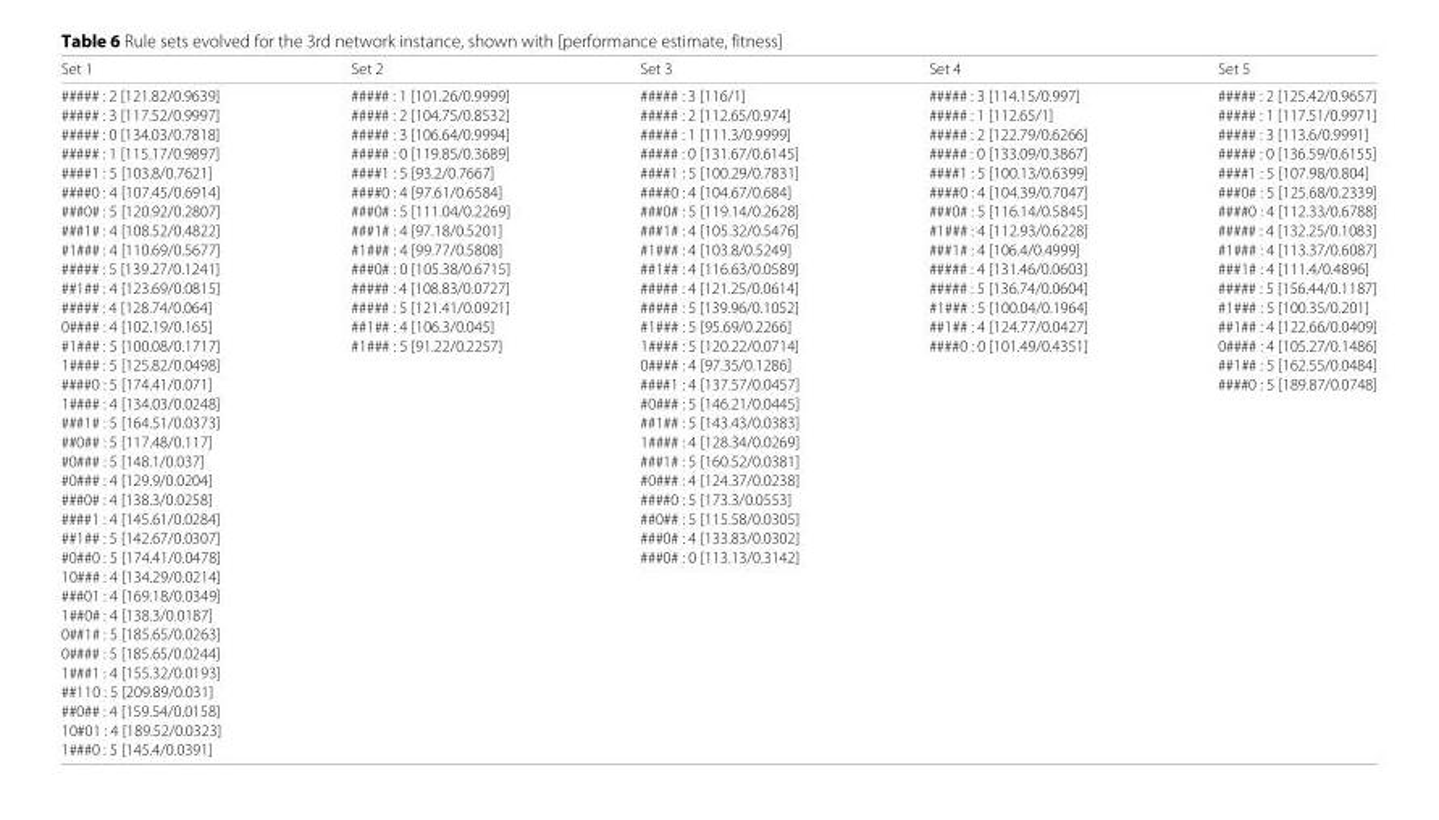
<table><thead><tr><td>Set 1</td><td>Set 2</td><td>Set 3</td><td>Set 4</td><td>Set 5</td></tr></thead><tbody><tr><td>##### : 2 [121.82/0.9639]</td><td>##### : 1 [101.26/0.9999]</td><td>##### : 3 [116/1]</td><td>##### : 3 [114.15/0.997]</td><td>##### : 2 [125.42/0.9657]</td></tr><tr><td>##### : 3 [117.52/0.9997]</td><td>##### : 2 [104.75/0.8532]</td><td>##### : 2 [112.65/0.974]</td><td>##### : 1 [112.65/1]</td><td>##### : 1 [117.51/0.9971]</td></tr><tr><td>##### : 0 [134.03/0.7818]</td><td>##### : 3 [106.64/0.9994]</td><td>##### : 1 [111.3/0.9999]</td><td>##### : 2 [122.79/0.6266]</td><td>##### : 3 [113.6/0.9991]</td></tr><tr><td>##### : 1 [115.17/0.9897]</td><td>##### : 0 [119.85/0.3689]</td><td>##### : 0 [131.67/0.6145]</td><td>##### : 0 [133.09/0.3867]</td><td>##### : 0 [136.59/0.6155]</td></tr><tr><td>####1 : 5 [103.8/0.7621]</td><td>####1 : 5 [93.2/0.7667]</td><td>####1 : 5 [100.29/0.7831]</td><td>####1 : 5 [100.13/0.6399]</td><td>####1 : 5 [107.98/0.804]</td></tr><tr><td>####0 : 4 [107.45/0.6914]</td><td>####0 : 4 [97.61/0.6584]</td><td>####0 : 4 [104.67/0.684]</td><td>####0 : 4 [104.39/0.7047]</td><td>###0# : 5 [125.68/0.2339]</td></tr><tr><td>###0# : 5 [120.92/0.2807]</td><td>###0# : 5 [111.04/0.2269]</td><td>###0# : 5 [119.14/0.2628]</td><td>###0# : 5 [116.14/0.5845]</td><td>####0 : 4 [112.33/0.6788]</td></tr><tr><td>###1# : 4 [108.52/0.4822]</td><td>###1# : 4 [97.18/0.5201]</td><td>###1# : 4 [105.32/0.5476]</td><td>#1### : 4 [112.93/0.6228]</td><td>##### : 4 [132.25/0.1083]</td></tr><tr><td>#1### : 4 [110.69/0.5677]</td><td>#1### : 4 [99.77/0.5808]</td><td>#1### : 4 [103.8/0.5249]</td><td>###1# : 4 [106.4/0.4999]</td><td>#1### : 4 [113.37/0.6087]</td></tr><tr><td>##### : 5 [139.27/0.1241]</td><td>###0# : 0 [105.38/0.6715]</td><td>##1## : 4 [116.63/0.0589]</td><td>##### : 4 [131.46/0.0603]</td><td>###1# : 4 [111.4/0.4896]</td></tr><tr><td>##1## : 4 [123.69/0.0815]</td><td>##### : 4 [108.83/0.0727]</td><td>##### : 4 [121.25/0.0614]</td><td>##### : 5 [136.74/0.0604]</td><td>##### : 5 [156.44/0.1187]</td></tr><tr><td>##### : 4 [128.74/0.064]</td><td>##### : 5 [121.41/0.0921]</td><td>##### : 5 [139.96/0.1052]</td><td>#1### : 5 [100.04/0.1964]</td><td>#1### : 5 [100.35/0.201]</td></tr><tr><td>0#### : 4 [102.19/0.165]</td><td>##1## : 4 [106.3/0.045]</td><td>#1### : 5 [95.69/0.2266]</td><td>##1## : 4 [124.77/0.0427]</td><td>##1## : 4 [122.66/0.0409]</td></tr><tr><td>#1### : 5 [100.08/0.1717]</td><td>#1### : 5 [91.22/0.2257]</td><td>1#### : 5 [120.22/0.0714]</td><td>####0 : 0 [101.49/0.4351]</td><td>0#### : 4 [105.27/0.1486]</td></tr><tr><td>1#### : 5 [125.82/0.0498]</td><td></td><td>0#### : 4 [97.35/0.1286]</td><td></td><td>##1## : 5 [162.55/0.0484]</td></tr><tr><td>####0 : 5 [174.41/0.071]</td><td></td><td>####1 : 4 [137.57/0.0457]</td><td></td><td>####0 : 5 [189.87/0.0748]</td></tr><tr><td>1#### : 4 [134.03/0.0248]</td><td></td><td>#0### : 5 [146.21/0.0445]</td><td></td><td></td></tr><tr><td>###1# : 5 [164.51/0.0373]</td><td></td><td>##1## : 5 [143.43/0.0383]</td><td></td><td></td></tr><tr><td>##0## : 5 [117.48/0.117]</td><td></td><td>1#### : 4 [128.34/0.0269]</td><td></td><td></td></tr><tr><td>#0### : 5 [148.1/0.037]</td><td></td><td>###1# : 5 [160.52/0.0381]</td><td></td><td></td></tr><tr><td>#0### : 4 [129.9/0.0204]</td><td></td><td>#0### : 4 [124.37/0.0238]</td><td></td><td></td></tr><tr><td>###0# : 4 [138.3/0.0258]</td><td></td><td>####0 : 5 [173.3/0.0553]</td><td></td><td></td></tr><tr><td>####1 : 4 [145.61/0.0284]</td><td></td><td>##0## : 5 [115.58/0.0305]</td><td></td><td></td></tr><tr><td>##1## : 5 [142.67/0.0307]</td><td></td><td>###0# : 4 [133.83/0.0302]</td><td></td><td></td></tr><tr><td>#0##0 : 5 [174.41/0.0478]</td><td></td><td>###0# : 0 [113.13/0.3142]</td><td></td><td></td></tr><tr><td colspan="5">10### : 4 [134.29/0.0214]</td></tr><tr><td colspan="5">###01 : 4 [169.18/0.0349]</td></tr><tr><td colspan="5">1##0# : 4 [138.3/0.0187]</td></tr><tr><td colspan="5">0##1# : 5 [185.65/0.0263]</td></tr><tr><td colspan="5">0#### : 5 [185.65/0.0244]</td></tr><tr><td colspan="5">1###1 : 4 [155.32/0.0193]</td></tr><tr><td colspan="5">##110 : 5 [209.89/0.031]</td></tr><tr><td colspan="5">##0## : 4 [159.54/0.0158]</td></tr><tr><td colspan="5">10#01 : 4 [189.52/0.0323]</td></tr><tr><td>1###0 : 5 [145.4/0.0391]</td><td></td><td></td><td></td><td></td></tr></tbody></table>